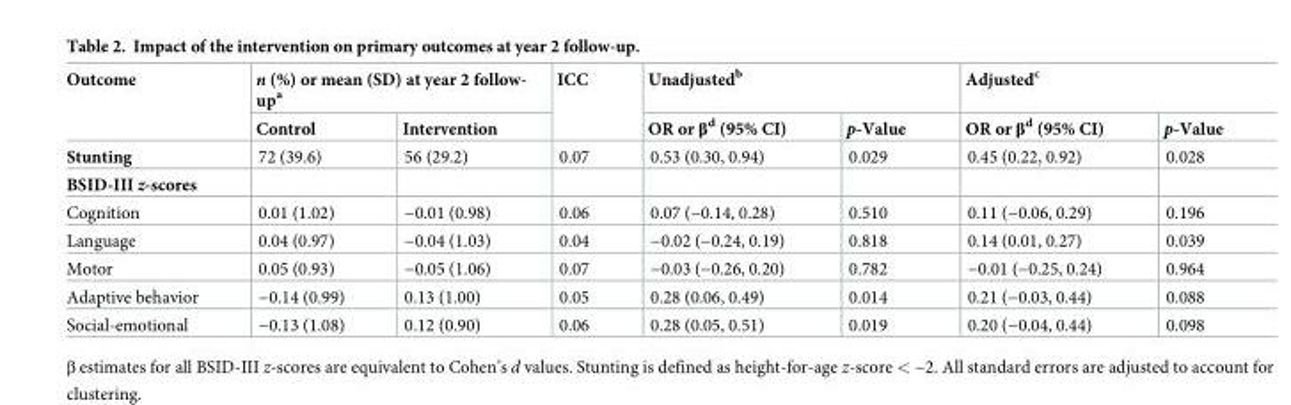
<table><thead><tr><td rowspan="2">Outcome</td><td colspan="2">n (%) or mean (SD) at year 2 follow- up<sup>a</sup></td><td rowspan="2">ICC</td><td colspan="2">Unadjusted<sup>b</sup></td><td colspan="2">Adjusted<sup>c</sup></td></tr><tr><td>Control</td><td>Intervention</td><td>OR or β<sup>d</sup> (95% CI)</td><td>p-Value</td><td>OR or β<sup>d</sup> (95% CI)</td><td>p-Value</td></tr></thead><tbody><tr><td>Stunting</td><td>72 (39.6)</td><td>56 (29.2)</td><td>0.07</td><td>0.53 (0.30, 0.94)</td><td>0.029</td><td>0.45 (0.22, 0.92)</td><td>0.028</td></tr><tr><td colspan="8">BSID-III z-scores</td></tr><tr><td>Cognition</td><td>0.01 (1.02)</td><td>−0.01 (0.98)</td><td>0.06</td><td>0.07 (−0.14, 0.28)</td><td>0.510</td><td>0.11 (−0.06, 0.29)</td><td>0.196</td></tr><tr><td>Language</td><td>0.04 (0.97)</td><td>−0.04 (1.03)</td><td>0.04</td><td>−0.02 (−0.24, 0.19)</td><td>0.818</td><td>0.14 (0.01, 0.27)</td><td>0.039</td></tr><tr><td>Motor</td><td>0.05 (0.93)</td><td>−0.05 (1.06)</td><td>0.07</td><td>−0.03 (−0.26, 0.20)</td><td>0.782</td><td>−0.01 (−0.25, 0.24)</td><td>0.964</td></tr><tr><td>Adaptive behavior</td><td>−0.14 (0.99)</td><td>0.13 (1.00)</td><td>0.05</td><td>0.28 (0.06, 0.49)</td><td>0.014</td><td>0.21 (−0.03, 0.44)</td><td>0.088</td></tr><tr><td>Social-emotional</td><td>−0.13 (1.08)</td><td>0.12 (0.90)</td><td>0.06</td><td>0.28 (0.05, 0.51)</td><td>0.019</td><td>0.20 (−0.04, 0.44)</td><td>0.098</td></tr></tbody></table>